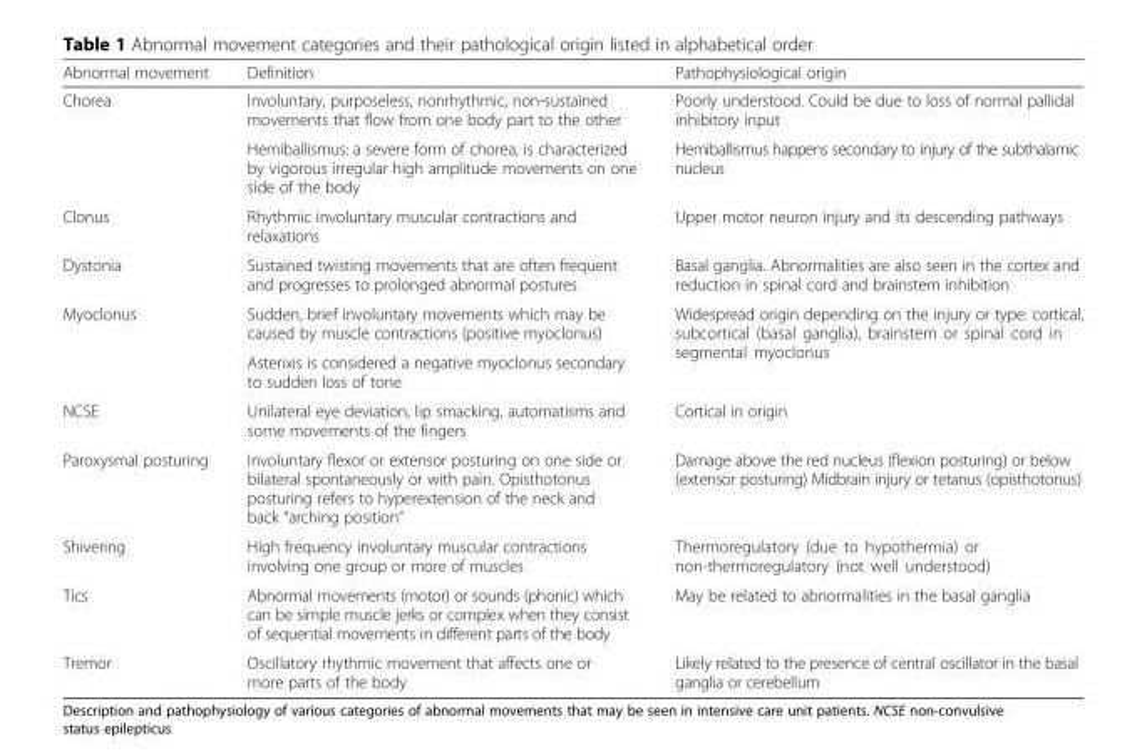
<table><thead><tr><td>Abnormal movement</td><td>Definition</td><td>Pathophysiological origin</td></tr></thead><tbody><tr><td rowspan="2">Chorea</td><td>Involuntary, purposeless, nonrhythmic, non-sustained movements that flow from one body part to the other</td><td>Poorly understood. Could be due to loss of normal pallidal inhibitory input</td></tr><tr><td>Hemiballismus: a severe form of chorea, is characterized by vigorous irregular high amplitude movements on one side of the body</td><td>Hemiballismus happens secondary to injury of the subthalamic nucleus</td></tr><tr><td>Clonus</td><td>Rhythmic involuntary muscular contractions and relaxations</td><td>Upper motor neuron injury and its descending pathways</td></tr><tr><td>Dystonia</td><td>Sustained twisting movements that are often frequent and progresses to prolonged abnormal postures</td><td>Basal ganglia. Abnormalities are also seen in the cortex and reduction in spinal cord and brainstem inhibition</td></tr><tr><td rowspan="2">Myoclonus</td><td>Sudden, brief involuntary movements which may be caused by muscle contractions (positive myoclonus)</td><td rowspan="2">Widespread origin depending on the injury or type: cortical, subcortical (basal ganglia), brainstem or spinal cord in segmental myoclonus</td></tr><tr><td>Asterixis is considered a negative myoclonus secondary to sudden loss of tone</td></tr><tr><td>NCSE</td><td>Unilateral eye deviation, lip smacking, automatisms and some movements of the fingers</td><td>Cortical in origin</td></tr><tr><td>Paroxysmal posturing</td><td>Involuntary flexor or extensor posturing on one side or bilateral spontaneously or with pain. Opisthotonus posturing refers to hyperextension of the neck and back “arching position”</td><td>Damage above the red nucleus (flexion posturing) or below (extensor posturing) Midbrain injury or tetanus (opisthotonus)</td></tr><tr><td>Shivering</td><td>High frequency involuntary muscular contractions involving one group or more of muscles</td><td>Thermoregulatory (due to hypothermia) or non-thermoregulatory (not well understood)</td></tr><tr><td>Tics</td><td>Abnormal movements (motor) or sounds (phonic) which can be simple muscle jerks or complex when they consist of sequential movements in different parts of the body</td><td>May be related to abnormalities in the basal ganglia</td></tr><tr><td>Tremor</td><td>Oscillatory rhythmic movement that affects one or more parts of the body</td><td>Likely related to the presence of central oscillator in the basal ganglia or cerebellum</td></tr></tbody></table>